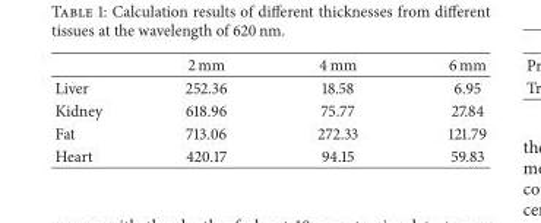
<table><thead><tr><td></td><td>2 mm</td><td>4 mm</td><td>6 mm</td></tr></thead><tbody><tr><td>Liver</td><td>252.36</td><td>18.58</td><td>6.95</td></tr><tr><td>Kidney</td><td>618.96</td><td>75.77</td><td>27.84</td></tr><tr><td>Fat</td><td>713.06</td><td>272.33</td><td>121.79</td></tr><tr><td>Heart</td><td>420.17</td><td>94.15</td><td>59.83</td></tr></tbody></table>